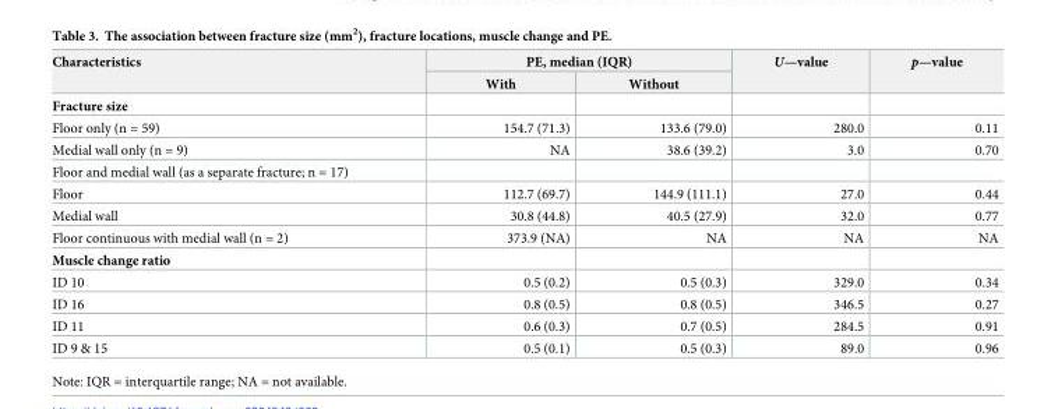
<table><thead><tr><td rowspan="2">Characteristics</td><td colspan="2">PE, median (IQR)</td><td rowspan="2">U—value</td><td rowspan="2">p—value</td></tr><tr><td>With</td><td>Without</td></tr></thead><tbody><tr><td colspan="5">Fracture size</td></tr><tr><td>Floor only (n = 59)</td><td>154.7 (71.3)</td><td>133.6 (79.0)</td><td>280.0</td><td>0.11</td></tr><tr><td>Medial wall only (n = 9)</td><td>NA</td><td>38.6 (39.2)</td><td>3.0</td><td>0.70</td></tr><tr><td colspan="5">Floor and medial wall (as a separate fracture; n = 17)</td></tr><tr><td>Floor</td><td>112.7 (69.7)</td><td>144.9 (111.1)</td><td>27.0</td><td>0.44</td></tr><tr><td>Medial wall</td><td>30.8 (44.8)</td><td>40.5 (27.9)</td><td>32.0</td><td>0.77</td></tr><tr><td>Floor continuous with medial wall (n = 2)</td><td>373.9 (NA)</td><td>NA</td><td>NA</td><td>NA</td></tr><tr><td colspan="5">Muscle change ratio</td></tr><tr><td>ID 10</td><td>0.5 (0.2)</td><td>0.5 (0.3)</td><td>329.0</td><td>0.34</td></tr><tr><td>ID 16</td><td>0.8 (0.5)</td><td>0.8 (0.5)</td><td>346.5</td><td>0.27</td></tr><tr><td>ID 11</td><td>0.6 (0.3)</td><td>0.7 (0.5)</td><td>284.5</td><td>0.91</td></tr><tr><td>ID 9 &amp; 15</td><td>0.5 (0.1)</td><td>0.5 (0.3)</td><td>89.0</td><td>0.96</td></tr></tbody></table>